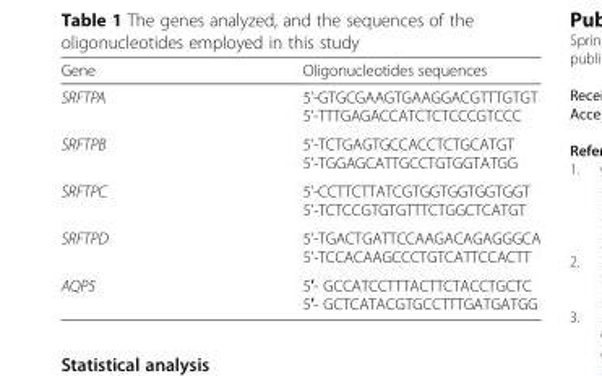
<table><thead><tr><td>Gene</td><td>Oligonucleotides sequences</td></tr></thead><tbody><tr><td>SRFTPA</td><td>5’-GTGCGAAGTGAAGGACGTTTGTGT 5’-TTTGAGACCATCTCTCCCGTCCC</td></tr><tr><td>SRFTPB</td><td>5’-TCTGAGTGCCACCTCTGCATGT 5’-TGGAGCATTGCCTGTGGTATGG</td></tr><tr><td>SRFTPC</td><td>5’-CCTTCTTATCGTGGTGGTGGTGGT 5’-TCTCCGTGTGTTTCTGGCTCATGT</td></tr><tr><td>SRFTPD</td><td>5’-TGACTGATTCCAAGACAGAGGGCA 5’-TCCACAAGCCCTGTCATTCCACTT</td></tr><tr><td>AQP5</td><td>5′- GCCATCCTTTACTTCTACCTGCTC 5′- GCTCATACGTGCCTTTGATGATGG</td></tr></tbody></table>